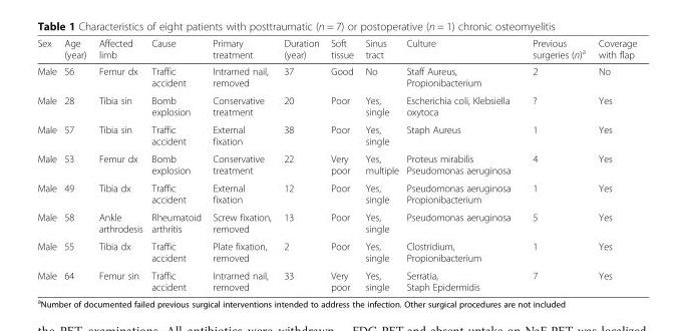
<table><thead><tr><td>Sex</td><td>Age (year)</td><td>Affected limb</td><td>Cause</td><td>Primary treatment</td><td>Duration (year)</td><td>Soft tissue</td><td>Sinus tract</td><td>Culture</td><td>Previous surgeries (n)<sup>a</sup></td><td>Coverage with flap</td></tr></thead><tbody><tr><td>Male</td><td>56</td><td>Femur dx</td><td>Traffic accident</td><td>Intramed nail, removed</td><td>37</td><td>Good</td><td>No</td><td>Staff Aureus, Propionibacterium</td><td>2</td><td>No</td></tr><tr><td>Male</td><td>28</td><td>Tibia sin</td><td>Bomb explosion</td><td>Conservative treatment</td><td>20</td><td>Poor</td><td>Yes, single</td><td>Escherichia coli, Klebsiella oxytoca</td><td>?</td><td>Yes</td></tr><tr><td>Male</td><td>57</td><td>Tibia sin</td><td>Traffic accident</td><td>External fixation</td><td>38</td><td>Poor</td><td>Yes, single</td><td>Staph Aureus</td><td>1</td><td>Yes</td></tr><tr><td>Male</td><td>53</td><td>Femur dx</td><td>Bomb explosion</td><td>Conservative treatment</td><td>22</td><td>Very poor</td><td>Yes, multiple</td><td>Proteus mirabilis Pseudomonas aeruginosa</td><td>4</td><td>Yes</td></tr><tr><td>Male</td><td>49</td><td>Tibia dx</td><td>Traffic accident</td><td>External fixation</td><td>12</td><td>Poor</td><td>Yes, single</td><td>Pseudomonas aeruginosa Propionibacterium</td><td>1</td><td>Yes</td></tr><tr><td>Male</td><td>58</td><td>Ankle arthrodesis</td><td>Rheumatoid arthritis</td><td>Screw fixation, removed</td><td>13</td><td>Poor</td><td>Yes, single</td><td>Pseudomonas aeruginosa</td><td>5</td><td>Yes</td></tr><tr><td>Male</td><td>55</td><td>Tibia dx</td><td>Traffic accident</td><td>Plate fixation, removed</td><td>2</td><td>Poor</td><td>Yes, single</td><td>Clostridium, Propionibacterium</td><td>1</td><td>Yes</td></tr><tr><td>Male</td><td>64</td><td>Femur sin</td><td>Traffic accident</td><td>Intramed nail, removed</td><td>33</td><td>Very poor</td><td>Yes, single</td><td>Serratia, Staph Epidermidis</td><td>7</td><td>Yes</td></tr></tbody></table>